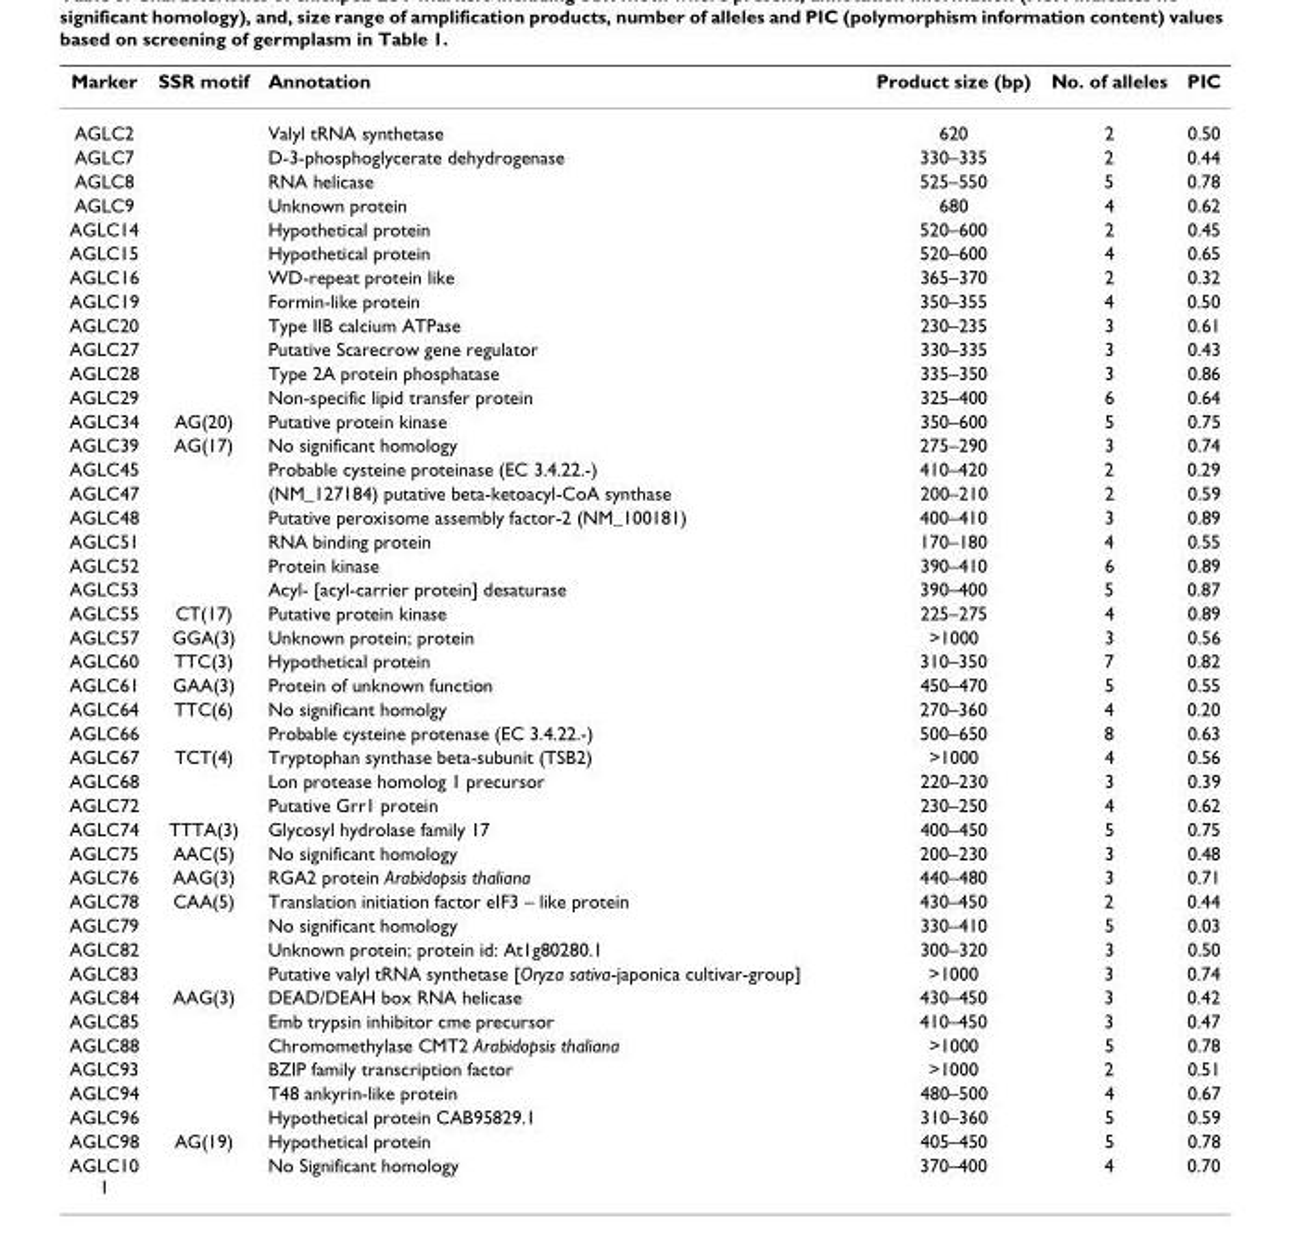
<table><thead><tr><td>Marker</td><td>SSR motif</td><td>Annotation</td><td>Product size (bp)</td><td>No. of alleles</td><td>PIC</td></tr></thead><tbody><tr><td>AGLC2</td><td></td><td>Valyl tRNA synthetase</td><td>620</td><td>2</td><td>0.50</td></tr><tr><td>AGLC7</td><td></td><td>D-3-phosphoglycerate dehydrogenase</td><td>330–335</td><td>2</td><td>0.44</td></tr><tr><td>AGLC8</td><td></td><td>RNA helicase</td><td>525–550</td><td>5</td><td>0.78</td></tr><tr><td>AGLC9</td><td></td><td>Unknown protein</td><td>680</td><td>4</td><td>0.62</td></tr><tr><td>AGLC14</td><td></td><td>Hypothetical protein</td><td>520–600</td><td>2</td><td>0.45</td></tr><tr><td>AGLC15</td><td></td><td>Hypothetical protein</td><td>520–600</td><td>4</td><td>0.65</td></tr><tr><td>AGLC16</td><td></td><td>WD-repeat protein like</td><td>365–370</td><td>2</td><td>0.32</td></tr><tr><td>AGLC19</td><td></td><td>Formin-like protein</td><td>350–355</td><td>4</td><td>0.50</td></tr><tr><td>AGLC20</td><td></td><td>Type IIB calcium ATPase</td><td>230–235</td><td>3</td><td>0.61</td></tr><tr><td>AGLC27</td><td></td><td>Putative Scarecrow gene regulator</td><td>330–335</td><td>3</td><td>0.43</td></tr><tr><td>AGLC28</td><td></td><td>Type 2A protein phosphatase</td><td>335–350</td><td>3</td><td>0.86</td></tr><tr><td>AGLC29</td><td></td><td>Non-specific lipid transfer protein</td><td>325–400</td><td>6</td><td>0.64</td></tr><tr><td>AGLC34</td><td>AG(20)</td><td>Putative protein kinase</td><td>350–600</td><td>5</td><td>0.75</td></tr><tr><td>AGLC39</td><td>AG(17)</td><td>No significant homology</td><td>275–290</td><td>3</td><td>0.74</td></tr><tr><td>AGLC45</td><td></td><td>Probable cysteine proteinase (EC 3.4.22.-)</td><td>410–420</td><td>2</td><td>0.29</td></tr><tr><td>AGLC47</td><td></td><td>(NM_127184) putative beta-ketoacyl-CoA synthase</td><td>200–210</td><td>2</td><td>0.59</td></tr><tr><td>AGLC48</td><td></td><td>Putative peroxisome assembly factor-2 (NM_100181)</td><td>400–410</td><td>3</td><td>0.89</td></tr><tr><td>AGLC51</td><td></td><td>RNA binding protein</td><td>170–180</td><td>4</td><td>0.55</td></tr><tr><td>AGLC52</td><td></td><td>Protein kinase</td><td>390–410</td><td>6</td><td>0.89</td></tr><tr><td>AGLC53</td><td></td><td>Acyl- [acyl-carrier protein] desaturase</td><td>390–400</td><td>5</td><td>0.87</td></tr><tr><td>AGLC55</td><td>CT(17)</td><td>Putative protein kinase</td><td>225–275</td><td>4</td><td>0.89</td></tr><tr><td>AGLC57</td><td>GGA(3)</td><td>Unknown protein; protein</td><td>&gt;1000</td><td>3</td><td>0.56</td></tr><tr><td>AGLC60</td><td>TTC(3)</td><td>Hypothetical protein</td><td>310–350</td><td>7</td><td>0.82</td></tr><tr><td>AGLC61</td><td>GAA(3)</td><td>Protein of unknown function</td><td>450–470</td><td>5</td><td>0.55</td></tr><tr><td>AGLC64</td><td>TTC(6)</td><td>No significant homolgy</td><td>270–360</td><td>4</td><td>0.20</td></tr><tr><td>AGLC66</td><td></td><td>Probable cysteine protenase (EC 3.4.22.-)</td><td>500–650</td><td>8</td><td>0.63</td></tr><tr><td>AGLC67</td><td>TCT(4)</td><td>Tryptophan synthase beta-subunit (TSB2)</td><td>&gt;1000</td><td>4</td><td>0.56</td></tr><tr><td>AGLC68</td><td></td><td>Lon protease homolog 1 precursor</td><td>220–230</td><td>3</td><td>0.39</td></tr><tr><td>AGLC72</td><td></td><td>Putative Grr1 protein</td><td>230–250</td><td>4</td><td>0.62</td></tr><tr><td>AGLC74</td><td>TTTA(3)</td><td>Glycosyl hydrolase family 17</td><td>400–450</td><td>5</td><td>0.75</td></tr><tr><td>AGLC75</td><td>AAC(5)</td><td>No significant homology</td><td>200–230</td><td>3</td><td>0.48</td></tr><tr><td>AGLC76</td><td>AAG(3)</td><td>RGA2 protein Arabidopsis thaliana</td><td>440–480</td><td>3</td><td>0.71</td></tr><tr><td>AGLC78</td><td>CAA(5)</td><td>Translation initiation factor eIF3 – like protein</td><td>430–450</td><td>2</td><td>0.44</td></tr><tr><td>AGLC79</td><td></td><td>No significant homology</td><td>330–410</td><td>5</td><td>0.03</td></tr><tr><td>AGLC82</td><td></td><td>Unknown protein; protein id: At1g80280.1</td><td>300–320</td><td>3</td><td>0.50</td></tr><tr><td>AGLC83</td><td></td><td>Putative valyl tRNA synthetase [Oryza sativa-japonica cultivar-group]</td><td>&gt;1000</td><td>3</td><td>0.74</td></tr><tr><td>AGLC84</td><td>AAG(3)</td><td>DEAD/DEAH box RNA helicase</td><td>430–450</td><td>3</td><td>0.42</td></tr><tr><td>AGLC85</td><td></td><td>Emb trypsin inhibitor cme precursor</td><td>410–450</td><td>3</td><td>0.47</td></tr><tr><td>AGLC88</td><td></td><td>Chromomethylase CMT2 Arabidopsis thaliana</td><td>&gt;1000</td><td>5</td><td>0.78</td></tr><tr><td>AGLC93</td><td></td><td>BZIP family transcription factor</td><td>&gt;1000</td><td>2</td><td>0.51</td></tr><tr><td>AGLC94</td><td></td><td>T48 ankyrin-like protein</td><td>480–500</td><td>4</td><td>0.67</td></tr><tr><td>AGLC96</td><td></td><td>Hypothetical protein CAB95829.1</td><td>310–360</td><td>5</td><td>0.59</td></tr><tr><td>AGLC98</td><td>AG(19)</td><td>Hypothetical protein</td><td>405–450</td><td>5</td><td>0.78</td></tr><tr><td>AGLC10</td><td></td><td>No Significant homology</td><td>370–400</td><td>4</td><td>0.70</td></tr></tbody></table>